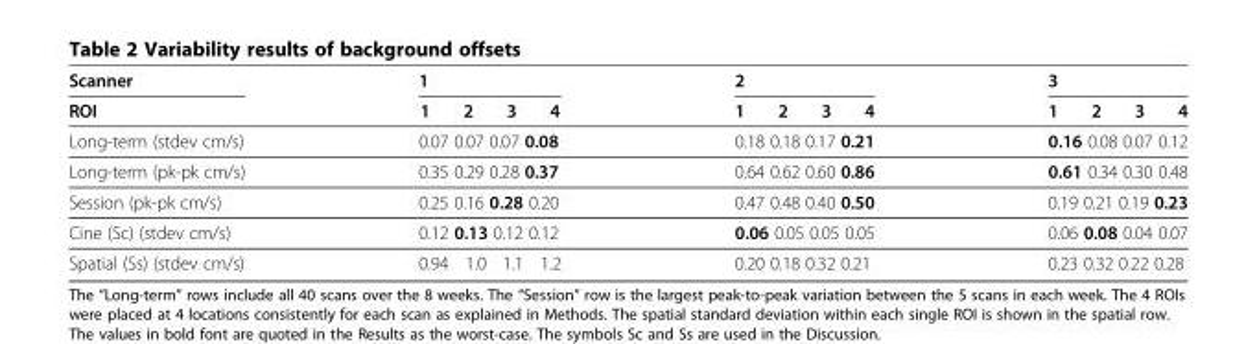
<table><thead><tr><td rowspan="2">Scanner ROI</td><td rowspan="2">1 1 2 3 4</td><td rowspan="2">2 1 2 3 4</td><td rowspan="2">3 1 2 3 4</td></tr><tr></tr></thead><tbody><tr><td>Long-term (stdev cm/s)</td><td>0.07 0.07 0.07 0.08</td><td>0.18 0.18 0.17 0.21</td><td>0.16 0.08 0.07 0.12</td></tr><tr><td>Long-term (pk-pk cm/s)</td><td>0.35 0.29 0.28 0.37</td><td>0.64 0.62 0.60 0.86</td><td>0.61 0.34 0.30 0.48</td></tr><tr><td>Session (pk-pk cm/s)</td><td>0.25 0.16 0.28 0.20</td><td>0.47 0.48 0.40 0.50</td><td>0.19 0.21 0.19 0.23</td></tr><tr><td>Cine (Sc) (stdev cm/s)</td><td>0.12 0.13 0.12 0.12</td><td>0.06 0.05 0.05 0.05</td><td>0.06 0.08 0.04 0.07</td></tr><tr><td>Spatial (Ss) (stdev cm/s)</td><td>0.94 1.0 1.1 1.2</td><td>0.20 0.18 0.32 0.21</td><td>0.23 0.32 0.22 0.28</td></tr></tbody></table>